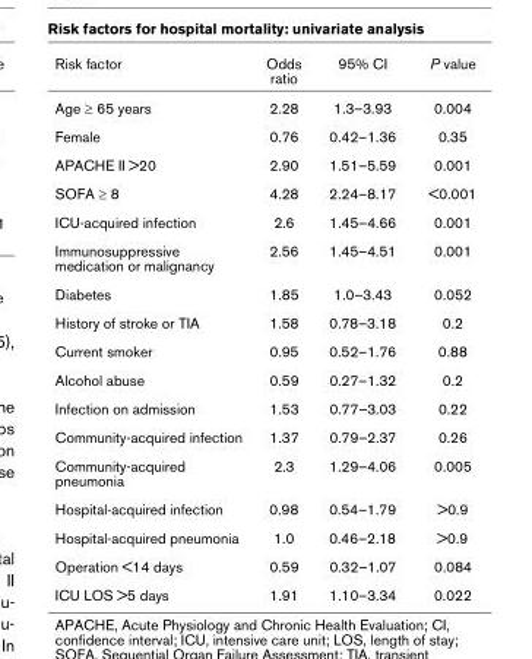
<table><thead><tr><td>Risk factor</td><td>Odds ratio</td><td>95% CI</td><td>P value</td></tr></thead><tbody><tr><td>Age ≥ 65 years</td><td>2.28</td><td>1.3–3.93</td><td>0.004</td></tr><tr><td>Female</td><td>0.76</td><td>0.42–1.36</td><td>0.35</td></tr><tr><td>APACHE II &gt;20</td><td>2.90</td><td>1.51–5.59</td><td>0.001</td></tr><tr><td>SOFA ≥ 8</td><td>4.28</td><td>2.24–8.17</td><td>&lt;0.001</td></tr><tr><td>ICU-acquired infection</td><td>2.6</td><td>1.45–4.66</td><td>0.001</td></tr><tr><td>Immunosuppressive medication or malignancy</td><td>2.56</td><td>1.45–4.51</td><td>0.001</td></tr><tr><td>Diabetes</td><td>1.85</td><td>1.0–3.43</td><td>0.052</td></tr><tr><td>History of stroke or TIA</td><td>1.58</td><td>0.78–3.18</td><td>0.2</td></tr><tr><td>Current smoker</td><td>0.95</td><td>0.52–1.76</td><td>0.88</td></tr><tr><td>Alcohol abuse</td><td>0.59</td><td>0.27–1.32</td><td>0.2</td></tr><tr><td>Infection on admission</td><td>1.53</td><td>0.77–3.03</td><td>0.22</td></tr><tr><td>Community-acquired infection</td><td>1.37</td><td>0.79–2.37</td><td>0.26</td></tr><tr><td>Community-acquired pneumonia</td><td>2.3</td><td>1.29–4.06</td><td>0.005</td></tr><tr><td>Hospital-acquired infection</td><td>0.98</td><td>0.54–1.79</td><td>&gt;0.9</td></tr><tr><td>Hospital-acquired pneumonia</td><td>1.0</td><td>0.46–2.18</td><td>&gt;0.9</td></tr><tr><td>Operation &lt;14 days</td><td>0.59</td><td>0.32–1.07</td><td>0.084</td></tr><tr><td>ICU LOS &gt;5 days</td><td>1.91</td><td>1.10–3.34</td><td>0.022</td></tr></tbody></table>